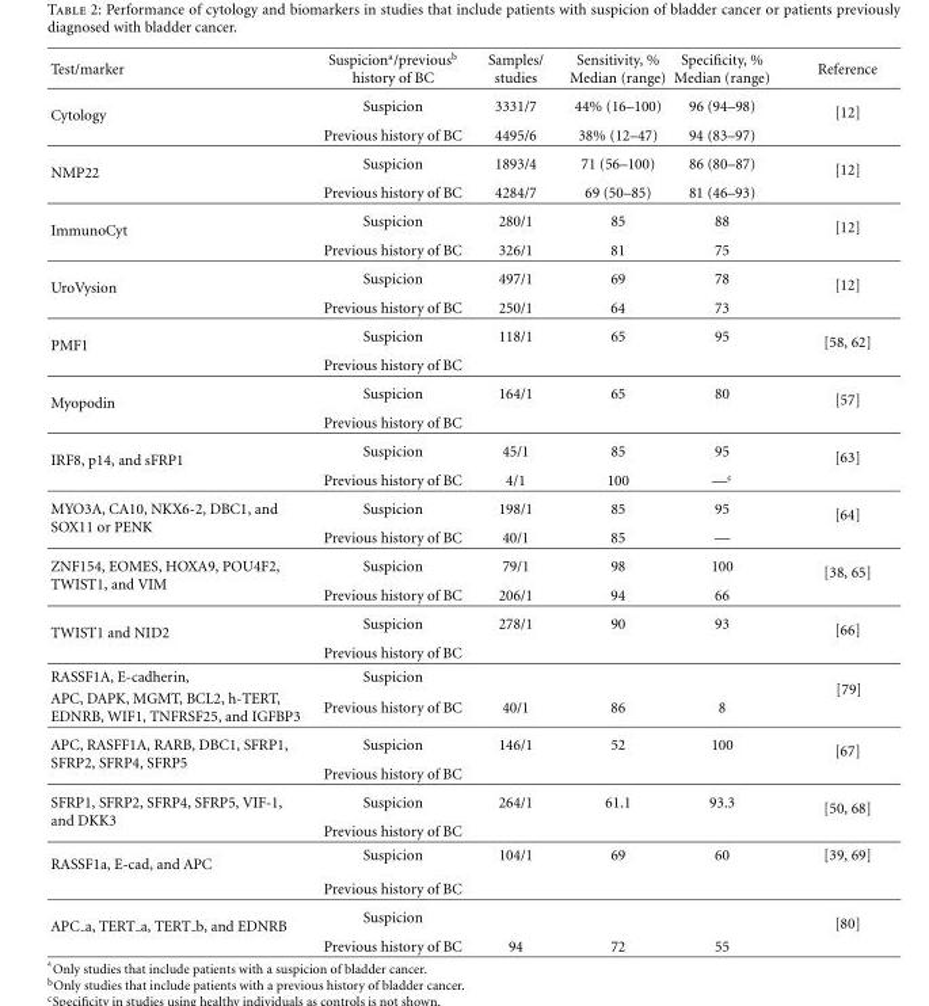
<table><thead><tr><td>Test/marker</td><td>Suspiciona/previousb history of BC</td><td>Samples/ studies</td><td>Sensitivity, % Median (range)</td><td>Specificity, % Median (range)</td><td>Reference</td></tr></thead><tbody><tr><td rowspan="2">Cytology</td><td>Suspicion</td><td>3331/7</td><td>44% (16–100)</td><td>96 (94–98)</td><td>[12]</td></tr><tr><td>Previous history of BC</td><td>4495/6</td><td>38% (12–47)</td><td>94 (83–97)</td><td></td></tr><tr><td rowspan="2">NMP22</td><td>Suspicion</td><td>1893/4</td><td>71 (56–100)</td><td>86 (80–87)</td><td>[12]</td></tr><tr><td>Previous history of BC</td><td>4284/7</td><td>69 (50–85)</td><td>81 (46–93)</td><td></td></tr><tr><td rowspan="2">ImmunoCyt</td><td>Suspicion</td><td>280/1</td><td>85</td><td>88</td><td>[12]</td></tr><tr><td>Previous history of BC</td><td>326/1</td><td>81</td><td>75</td><td></td></tr><tr><td rowspan="2">UroVysion</td><td>Suspicion</td><td>497/1</td><td>69</td><td>78</td><td>[12]</td></tr><tr><td>Previous history of BC</td><td>250/1</td><td>64</td><td>73</td><td></td></tr><tr><td rowspan="2">PMF1</td><td>Suspicion</td><td>118/1</td><td>65</td><td>95</td><td>[58, 62]</td></tr><tr><td>Previous history of BC</td><td></td><td></td><td></td><td></td></tr><tr><td rowspan="2">Myopodin</td><td>Suspicion</td><td>164/1</td><td>65</td><td>80</td><td>[57]</td></tr><tr><td>Previous history of BC</td><td></td><td></td><td></td><td></td></tr><tr><td rowspan="2">IRF8, p14, and sFRP1</td><td>Suspicion</td><td>45/1</td><td>85</td><td>95</td><td>[63]</td></tr><tr><td>Previous history of BC</td><td>4/1</td><td>100</td><td>—c</td><td></td></tr><tr><td rowspan="2">MYO3A, CA10, NKX6-2, DBC1, and SOX11 or PENK</td><td>Suspicion</td><td>198/1</td><td>85</td><td>95</td><td>[64]</td></tr><tr><td>Previous history of BC</td><td>40/1</td><td>85</td><td>—</td><td></td></tr><tr><td rowspan="2">ZNF154, EOMES, HOXA9, POU4F2, TWIST1, and VIM</td><td>Suspicion</td><td>79/1</td><td>98</td><td>100</td><td>[38, 65]</td></tr><tr><td>Previous history of BC</td><td>206/1</td><td>94</td><td>66</td><td></td></tr><tr><td rowspan="2">TWIST1 and NID2</td><td>Suspicion</td><td>278/1</td><td>90</td><td>93</td><td>[66]</td></tr><tr><td>Previous history of BC</td><td></td><td></td><td></td><td></td></tr><tr><td>RASSF1A, E-cadherin,</td><td>Suspicion</td><td></td><td></td><td></td><td rowspan="2">[79]</td></tr><tr><td>APC, DAPK, MGMT, BCL2, h-TERT, EDNRB, WIF1, TNFRSF25, and IGFBP3</td><td>Previous history of BC</td><td>40/1</td><td>86</td><td>8</td></tr><tr><td rowspan="2">APC, RASFF1A, RARB, DBC1, SFRP1, SFRP2, SFRP4, SFRP5</td><td>Suspicion</td><td>146/1</td><td>52</td><td>100</td><td>[67]</td></tr><tr><td>Previous history of BC</td><td></td><td></td><td></td><td></td></tr><tr><td rowspan="2">SFRP1, SFRP2, SFRP4, SFRP5, VIF-1, and DKK3</td><td>Suspicion</td><td>264/1</td><td>61.1</td><td>93.3</td><td>[50, 68]</td></tr><tr><td>Previous history of BC</td><td></td><td></td><td></td><td></td></tr><tr><td rowspan="2">RASSF1a, E-cad, and APC</td><td>Suspicion</td><td>104/1</td><td>69</td><td>60</td><td>[39, 69]</td></tr><tr><td>Previous history of BC</td><td></td><td></td><td></td><td></td></tr><tr><td rowspan="2">APC a, TERT a, TERT b, and EDNRB</td><td>Suspicion</td><td></td><td></td><td></td><td>[80]</td></tr><tr><td>Previous history of BC</td><td>94</td><td>72</td><td>55</td><td></td></tr></tbody></table>